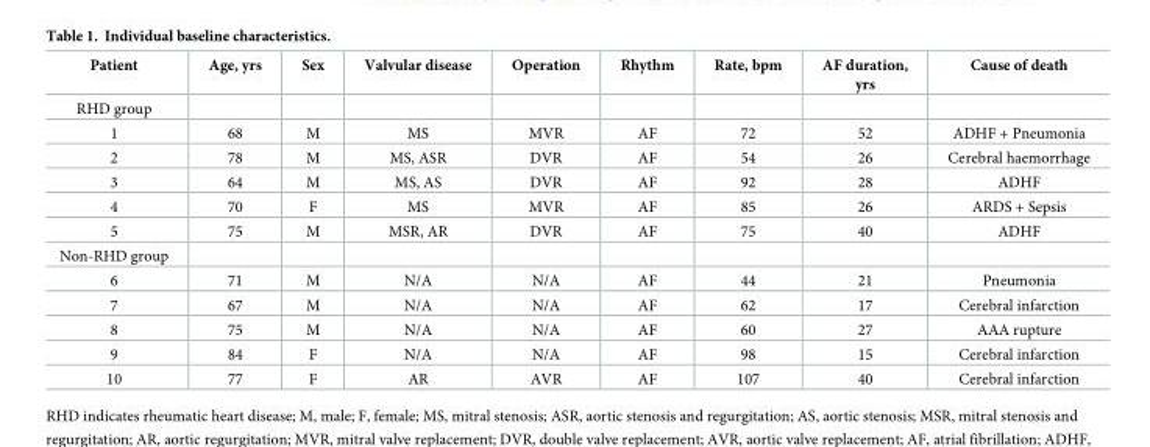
<table><thead><tr><td>Patient</td><td>Age, yrs</td><td>Sex</td><td>Valvular disease</td><td>Operation</td><td>Rhythm</td><td>Rate, bpm</td><td>AF duration, yrs</td><td>Cause of death</td></tr></thead><tbody><tr><td colspan="9">RHD group</td></tr><tr><td>1</td><td>68</td><td>M</td><td>MS</td><td>MVR</td><td>AF</td><td>72</td><td>52</td><td>ADHF + Pneumonia</td></tr><tr><td>2</td><td>78</td><td>M</td><td>MS, ASR</td><td>DVR</td><td>AF</td><td>54</td><td>26</td><td>Cerebral haemorrhage</td></tr><tr><td>3</td><td>64</td><td>M</td><td>MS, AS</td><td>DVR</td><td>AF</td><td>92</td><td>28</td><td>ADHF</td></tr><tr><td>4</td><td>70</td><td>F</td><td>MS</td><td>MVR</td><td>AF</td><td>85</td><td>26</td><td>ARDS + Sepsis</td></tr><tr><td>5</td><td>75</td><td>M</td><td>MSR, AR</td><td>DVR</td><td>AF</td><td>75</td><td>40</td><td>ADHF</td></tr><tr><td colspan="9">Non-RHD group</td></tr><tr><td>6</td><td>71</td><td>M</td><td>N/A</td><td>N/A</td><td>AF</td><td>44</td><td>21</td><td>Pneumonia</td></tr><tr><td>7</td><td>67</td><td>M</td><td>N/A</td><td>N/A</td><td>AF</td><td>62</td><td>17</td><td>Cerebral infarction</td></tr><tr><td>8</td><td>75</td><td>M</td><td>N/A</td><td>N/A</td><td>AF</td><td>60</td><td>27</td><td>AAA rupture</td></tr><tr><td>9</td><td>84</td><td>F</td><td>N/A</td><td>N/A</td><td>AF</td><td>98</td><td>15</td><td>Cerebral infarction</td></tr><tr><td>10</td><td>77</td><td>F</td><td>AR</td><td>AVR</td><td>AF</td><td>107</td><td>40</td><td>Cerebral infarction</td></tr></tbody></table>